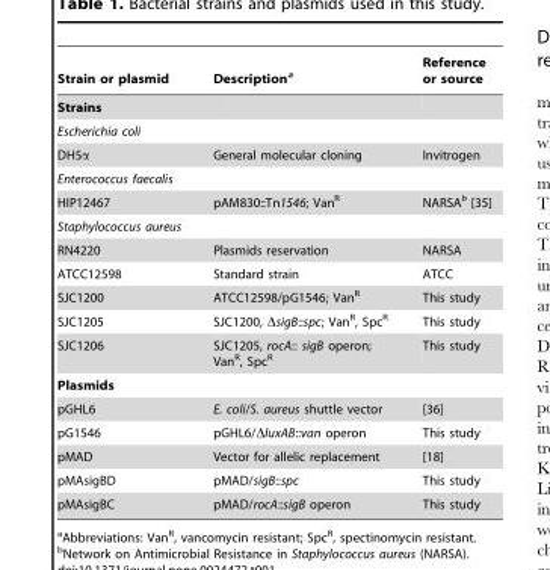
<table><thead><tr><td>Strain or plasmid</td><td>Description<sup>a</sup></td><td>Reference or source</td></tr></thead><tbody><tr><td colspan="3">Strains</td></tr><tr><td colspan="3">Escherichia coli</td></tr><tr><td>DH5α</td><td>General molecular cloning</td><td>Invitrogen</td></tr><tr><td colspan="3">Enterococcus faecalis</td></tr><tr><td>HIP12467</td><td>pAM830::Tn1546; Van<sup>R</sup></td><td>NARSA<sup>b</sup> [35]</td></tr><tr><td colspan="3">Staphylococcus aureus</td></tr><tr><td>RN4220</td><td>Plasmids reservation</td><td>NARSA</td></tr><tr><td>ATCC12598</td><td>Standard strain</td><td>ATCC</td></tr><tr><td>SJC1200</td><td>ATCC12598/pG1546; Van<sup>R</sup></td><td>This study</td></tr><tr><td>SJC1205</td><td>SJC1200, ΔsigB::spc; Van<sup>R</sup>, Spc<sup>R</sup></td><td>This study</td></tr><tr><td>SJC1206</td><td>SJC1205, rocA:: sigB operon; Van<sup>R</sup>, Spc<sup>R</sup></td><td>This study</td></tr><tr><td colspan="3">Plasmids</td></tr><tr><td>pGHL6</td><td>E. coli/S. aureus shuttle vector</td><td>[36]</td></tr><tr><td>pG1546</td><td>pGHL6/ΔluxAB::van operon</td><td>This study</td></tr><tr><td>pMAD</td><td>Vector for allelic replacement</td><td>[18]</td></tr><tr><td>pMAsigBD</td><td>pMAD/sigB::spc</td><td>This study</td></tr><tr><td>pMAsigBC</td><td>pMAD/rocA::sigB operon</td><td>This study</td></tr></tbody></table>